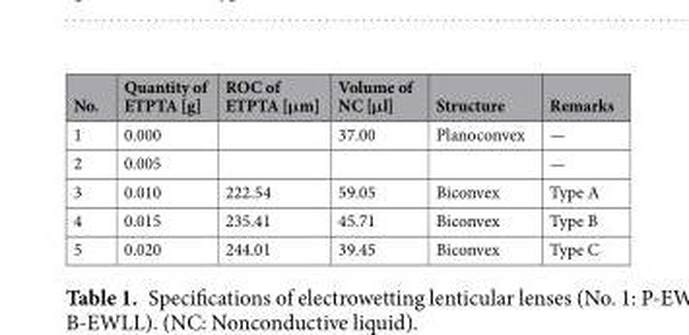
<table><thead><tr><td>No.</td><td>Quantity of ETPTA [g]</td><td>ROC of ETPTA [μm]</td><td>Volume of NC [μl]</td><td>Structure</td><td>Remarks</td></tr></thead><tbody><tr><td>1</td><td>0.000</td><td></td><td>37.00</td><td>Planoconvex</td><td>—</td></tr><tr><td>2</td><td>0.005</td><td></td><td></td><td></td><td>—</td></tr><tr><td>3</td><td>0.010</td><td>222.54</td><td>59.05</td><td>Biconvex</td><td>Type A</td></tr><tr><td>4</td><td>0.015</td><td>235.41</td><td>45.71</td><td>Biconvex</td><td>Type B</td></tr><tr><td>5</td><td>0.020</td><td>244.01</td><td>39.45</td><td>Biconvex</td><td>Type C</td></tr></tbody></table>